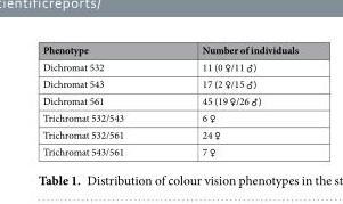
<table><thead><tr><td>Phenotype</td><td>Number of individuals</td></tr></thead><tbody><tr><td>Dichromat 532</td><td>11 (0 ♀/11 ♂)</td></tr><tr><td>Dichromat 543</td><td>17 (2 ♀/15 ♂)</td></tr><tr><td>Dichromat 561</td><td>45 (19 ♀/26 ♂)</td></tr><tr><td>Trichromat 532/543</td><td>6 ♀</td></tr><tr><td>Trichromat 532/561</td><td>24 ♀</td></tr><tr><td>Trichromat 543/561</td><td>7 ♀</td></tr></tbody></table>